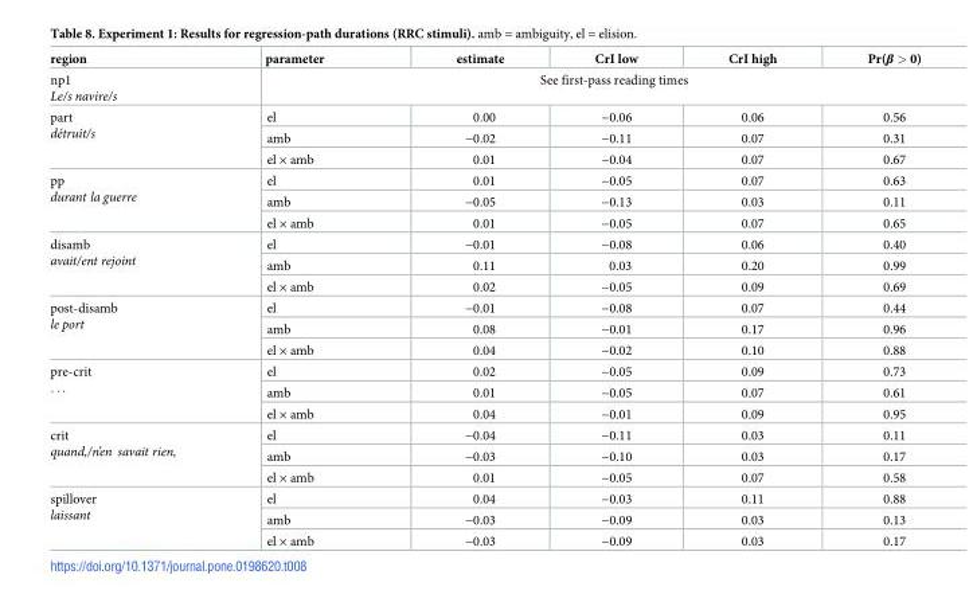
<table><thead><tr><td>region</td><td>parameter</td><td>estimate</td><td>CrI low</td><td>CrI high</td><td>Pr(β &gt; 0)</td></tr></thead><tbody><tr><td>np1 Le/s navire/s</td><td colspan="5">See first-pass reading times</td></tr><tr><td rowspan="3">part détruit/s</td><td>el</td><td>0.00</td><td>−0.06</td><td>0.06</td><td>0.56</td></tr><tr><td>amb</td><td>−0.02</td><td>−0.11</td><td>0.07</td><td>0.31</td></tr><tr><td>el × amb</td><td>0.01</td><td>−0.04</td><td>0.07</td><td>0.67</td></tr><tr><td rowspan="3">pp durant la guerre</td><td>el</td><td>0.01</td><td>−0.05</td><td>0.07</td><td>0.63</td></tr><tr><td>amb</td><td>−0.05</td><td>−0.13</td><td>0.03</td><td>0.11</td></tr><tr><td>el × amb</td><td>0.01</td><td>−0.05</td><td>0.07</td><td>0.65</td></tr><tr><td rowspan="3">disamb avait/ent rejoint</td><td>el</td><td>−0.01</td><td>−0.08</td><td>0.06</td><td>0.40</td></tr><tr><td>amb</td><td>0.11</td><td>0.03</td><td>0.20</td><td>0.99</td></tr><tr><td>el × amb</td><td>0.02</td><td>−0.05</td><td>0.09</td><td>0.69</td></tr><tr><td rowspan="3">post-disamb le port</td><td>el</td><td>−0.01</td><td>−0.08</td><td>0.07</td><td>0.44</td></tr><tr><td>amb</td><td>0.08</td><td>−0.01</td><td>0.17</td><td>0.96</td></tr><tr><td>el × amb</td><td>0.04</td><td>−0.02</td><td>0.10</td><td>0.88</td></tr><tr><td rowspan="3">pre-crit . . .</td><td>el</td><td>0.02</td><td>−0.05</td><td>0.09</td><td>0.73</td></tr><tr><td>amb</td><td>0.01</td><td>−0.05</td><td>0.07</td><td>0.61</td></tr><tr><td>el × amb</td><td>0.04</td><td>−0.01</td><td>0.09</td><td>0.95</td></tr><tr><td rowspan="3">crit quand,/n’en savait rien,</td><td>el</td><td>−0.04</td><td>−0.11</td><td>0.03</td><td>0.11</td></tr><tr><td>amb</td><td>−0.03</td><td>−0.10</td><td>0.03</td><td>0.17</td></tr><tr><td>el × amb</td><td>0.01</td><td>−0.05</td><td>0.07</td><td>0.58</td></tr><tr><td rowspan="3">spillover laissant</td><td>el</td><td>0.04</td><td>−0.03</td><td>0.11</td><td>0.88</td></tr><tr><td>amb</td><td>−0.03</td><td>−0.09</td><td>0.03</td><td>0.13</td></tr><tr><td>el × amb</td><td>−0.03</td><td>−0.09</td><td>0.03</td><td>0.17</td></tr></tbody></table>